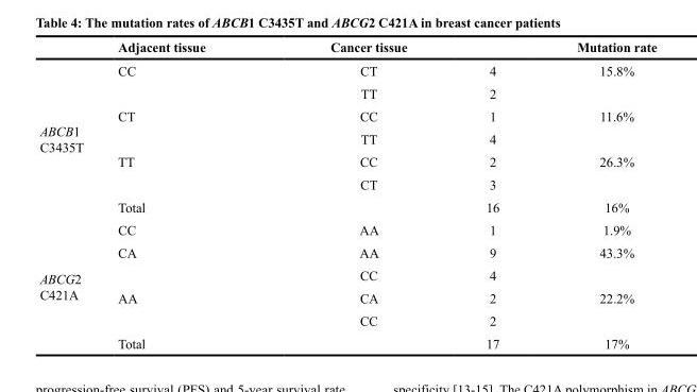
<table><thead><tr><td></td><td>Adjacent tissue</td><td>Cancer tissue</td><td></td><td>Mutation rate</td></tr></thead><tbody><tr><td rowspan="7">ABCB1 C3435T</td><td>CC</td><td>CT</td><td>4</td><td>15.8%</td></tr><tr><td></td><td>TT</td><td>2</td><td></td></tr><tr><td>CT</td><td>CC</td><td>1</td><td>11.6%</td></tr><tr><td></td><td>TT</td><td>4</td><td></td></tr><tr><td>TT</td><td>CC</td><td>2</td><td>26.3%</td></tr><tr><td></td><td>CT</td><td>3</td><td></td></tr><tr><td>Total</td><td></td><td>16</td><td>16%</td></tr><tr><td rowspan="6">ABCG2 C421A</td><td>CC</td><td>AA</td><td>1</td><td>1.9%</td></tr><tr><td>CA</td><td>AA</td><td>9</td><td>43.3%</td></tr><tr><td></td><td>CC</td><td>4</td><td></td></tr><tr><td>AA</td><td>CA</td><td>2</td><td>22.2%</td></tr><tr><td></td><td>CC</td><td>2</td><td></td></tr><tr><td>Total</td><td></td><td>17</td><td>17%</td></tr></tbody></table>